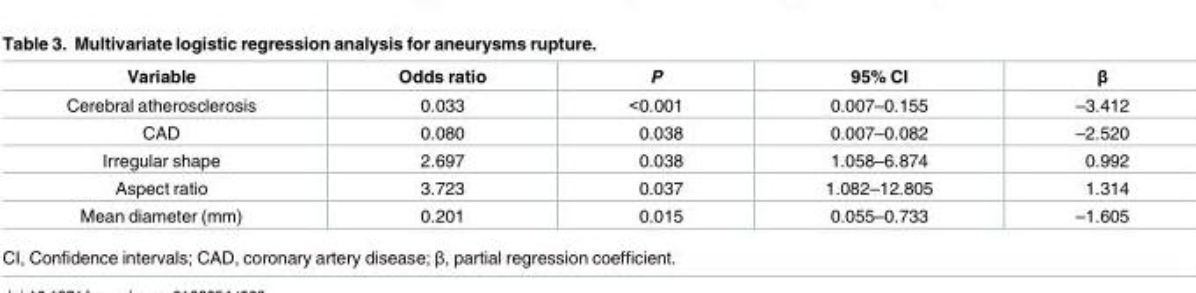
<table><thead><tr><td>Variable</td><td>Odds ratio</td><td>P</td><td>95% CI</td><td>β</td></tr></thead><tbody><tr><td>Cerebral atherosclerosis</td><td>0.033</td><td>&lt;0.001</td><td>0.007–0.155</td><td>–3.412</td></tr><tr><td>CAD</td><td>0.080</td><td>0.038</td><td>0.007–0.082</td><td>–2.520</td></tr><tr><td>Irregular shape</td><td>2.697</td><td>0.038</td><td>1.058–6.874</td><td>0.992</td></tr><tr><td>Aspect ratio</td><td>3.723</td><td>0.037</td><td>1.082–12.805</td><td>1.314</td></tr><tr><td>Mean diameter (mm)</td><td>0.201</td><td>0.015</td><td>0.055–0.733</td><td>–1.605</td></tr></tbody></table>